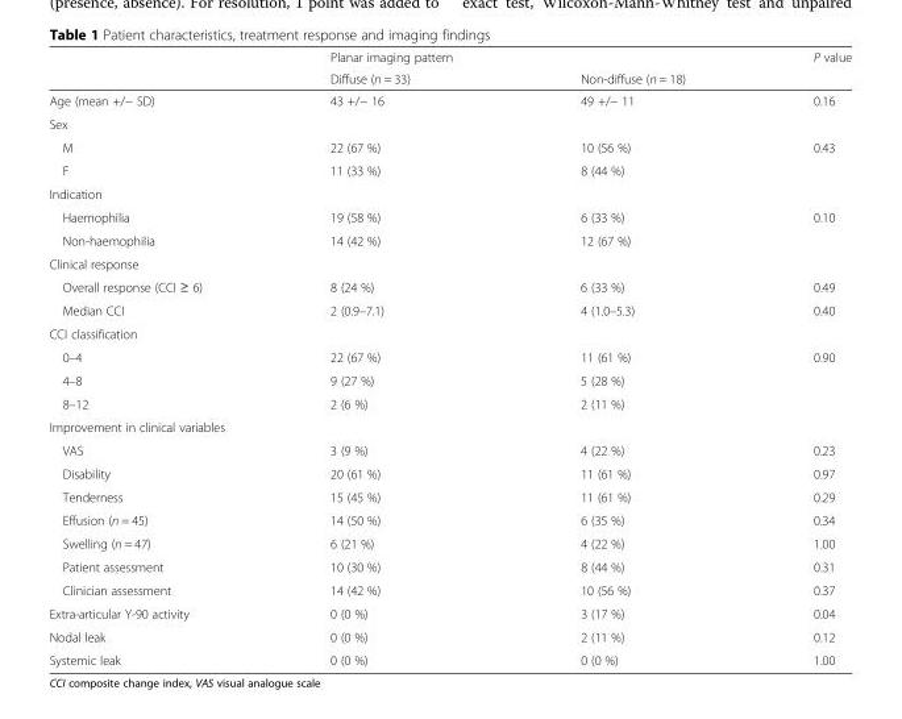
<table><thead><tr><td rowspan="2"></td><td rowspan="2">Planar imaging pattern Diffuse (n = 33)</td><td rowspan="2">Non-diffuse (n = 18)</td><td rowspan="2">P value</td></tr><tr></tr></thead><tbody><tr><td>Age (mean +/− SD)</td><td>43 +/− 16</td><td>49 +/− 11</td><td>0.16</td></tr><tr><td colspan="4">Sex</td></tr><tr><td>M</td><td>22 (67 %)</td><td>10 (56 %)</td><td>0.43</td></tr><tr><td>F</td><td>11 (33 %)</td><td>8 (44 %)</td><td></td></tr><tr><td colspan="4">Indication</td></tr><tr><td>Haemophilia</td><td>19 (58 %)</td><td>6 (33 %)</td><td>0.10</td></tr><tr><td>Non-haemophilia</td><td>14 (42 %)</td><td>12 (67 %)</td><td></td></tr><tr><td colspan="4">Clinical response</td></tr><tr><td>Overall response (CCI ≥ 6)</td><td>8 (24 %)</td><td>6 (33 %)</td><td>0.49</td></tr><tr><td>Median CCI</td><td>2 (0.9–7.1)</td><td>4 (1.0–5.3)</td><td>0.40</td></tr><tr><td colspan="4">CCI classification</td></tr><tr><td>0–4</td><td>22 (67 %)</td><td>11 (61 %)</td><td>0.90</td></tr><tr><td>4–8</td><td>9 (27 %)</td><td>5 (28 %)</td><td></td></tr><tr><td>8–12</td><td>2 (6 %)</td><td>2 (11 %)</td><td></td></tr><tr><td colspan="4">Improvement in clinical variables</td></tr><tr><td>VAS</td><td>3 (9 %)</td><td>4 (22 %)</td><td>0.23</td></tr><tr><td>Disability</td><td>20 (61 %)</td><td>11 (61 %)</td><td>0.97</td></tr><tr><td>Tenderness</td><td>15 (45 %)</td><td>11 (61 %)</td><td>0.29</td></tr><tr><td>Effusion (n = 45)</td><td>14 (50 %)</td><td>6 (35 %)</td><td>0.34</td></tr><tr><td>Swelling (n = 47)</td><td>6 (21 %)</td><td>4 (22 %)</td><td>1.00</td></tr><tr><td>Patient assessment</td><td>10 (30 %)</td><td>8 (44 %)</td><td>0.31</td></tr><tr><td>Clinician assessment</td><td>14 (42 %)</td><td>10 (56 %)</td><td>0.37</td></tr><tr><td>Extra-articular Y-90 activity</td><td>0 (0 %)</td><td>3 (17 %)</td><td>0.04</td></tr><tr><td>Nodal leak</td><td>0 (0 %)</td><td>2 (11 %)</td><td>0.12</td></tr><tr><td>Systemic leak</td><td>0 (0 %)</td><td>0 (0 %)</td><td>1.00</td></tr></tbody></table>